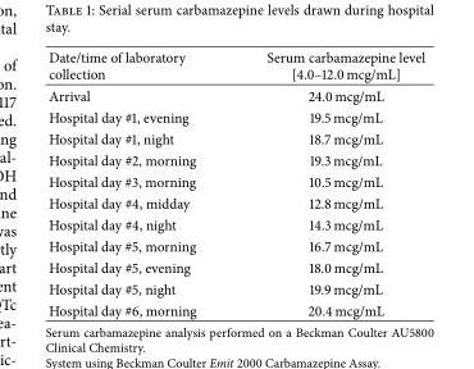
<table><thead><tr><td>Date/time of laboratory collection</td><td>Serum carbamazepine level [4.0–12.0 mcg/mL]</td></tr></thead><tbody><tr><td>Arrival</td><td>24.0 mcg/mL</td></tr><tr><td>Hospital day #1, evening</td><td>19.5 mcg/mL</td></tr><tr><td>Hospital day #1, night</td><td>18.7 mcg/mL</td></tr><tr><td>Hospital day #2, morning</td><td>19.3 mcg/mL</td></tr><tr><td>Hospital day #3, morning</td><td>10.5 mcg/mL</td></tr><tr><td>Hospital day #4, midday</td><td>12.8 mcg/mL</td></tr><tr><td>Hospital day #4, night</td><td>14.3 mcg/mL</td></tr><tr><td>Hospital day #5, morning</td><td>16.7 mcg/mL</td></tr><tr><td>Hospital day #5, evening</td><td>18.0 mcg/mL</td></tr><tr><td>Hospital day #5, night</td><td>19.9 mcg/mL</td></tr><tr><td>Hospital day #6, morning</td><td>20.4 mcg/mL</td></tr></tbody></table>